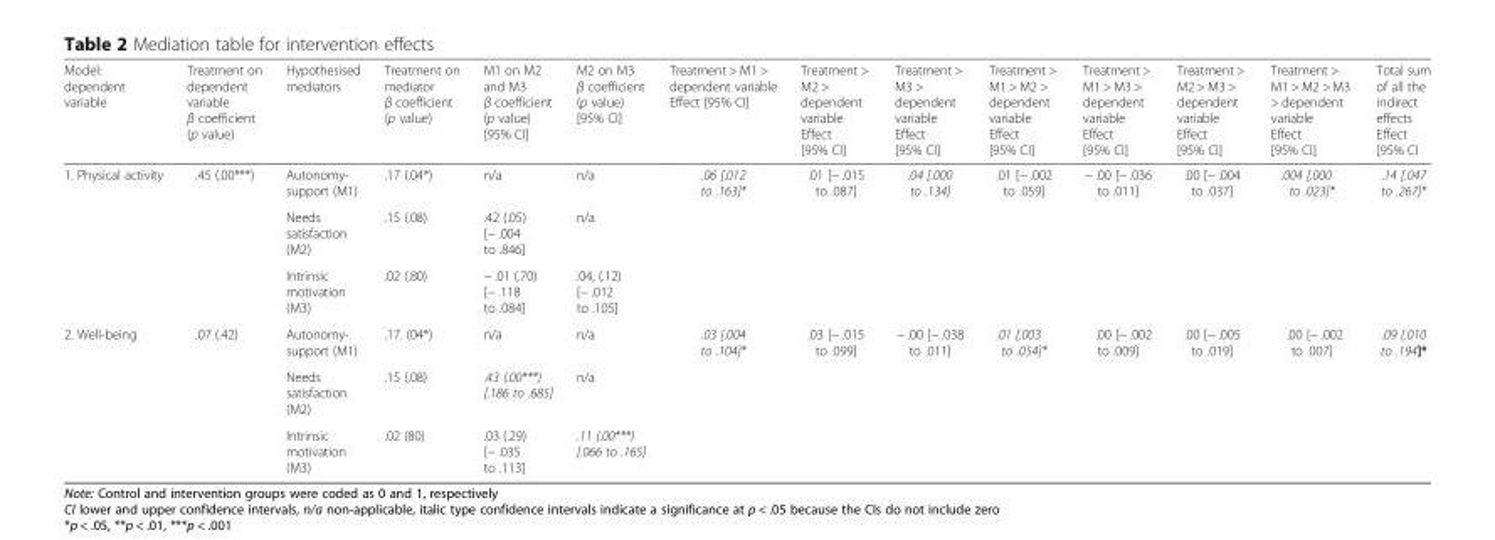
<table><thead><tr><td>Model: dependent variable</td><td>Treatment on dependent variable β coefficient (p value)</td><td>Hypothesised mediators</td><td>Treatment on mediator β coefficient (p value)</td><td>M1 on M2 and M3 β coefficient (p value) [95% CI]</td><td>M2 on M3 β coefficient (p value) [95% CI]</td><td>Treatment &gt; M1 &gt; dependent variable Effect [95% CI]</td><td>Treatment &gt; M2 &gt; dependent variable Effect [95% CI]</td><td>Treatment &gt; M3 &gt; dependent variable Effect [95% CI]</td><td>Treatment &gt; M1 &gt; M2 &gt; dependent variable Effect [95% CI]</td><td>Treatment &gt; M1 &gt; M3 &gt; dependent variable Effect [95% CI]</td><td>Treatment &gt; M2 &gt; M3 &gt; dependent variable Effect [95% CI]</td><td>Treatment &gt; M1 &gt; M2 &gt; M3 &gt; dependent variable Effect [95% CI]</td><td>Total sum of all the indirect effects Effect [95% CI</td></tr></thead><tbody><tr><td rowspan="3">1. Physical activity</td><td rowspan="3">.45 (.00***)</td><td>Autonomy- support (M1)</td><td>.17 (.04*)</td><td>n/a</td><td>n/a</td><td rowspan="3">.06 [.012 to .163]*</td><td rowspan="3">.01 [− .015 to .087]</td><td rowspan="3">.04 [.000 to .134]</td><td rowspan="3">.01 [− .002 to .059]</td><td rowspan="3">− .00 [− .036 to .011]</td><td rowspan="3">.00 [− .004 to .037]</td><td rowspan="3">.004 [.000 to .023]*</td><td rowspan="3">.14 [.047 to .267]*</td></tr><tr><td>Needs satisfaction (M2)</td><td>.15 (.08)</td><td>.42 (.05) [− .004 to .846]</td><td>n/a</td></tr><tr><td>Intrinsic motivation (M3)</td><td>.02 (.80)</td><td>− .01 (.70) [− .118 to .084]</td><td>.04, (.12) [− .012 to .105]</td></tr><tr><td rowspan="3">2. Well-being</td><td rowspan="3">.07 (.42)</td><td>Autonomy- support (M1)</td><td>.17. (04*)</td><td>n/a</td><td>n/a</td><td rowspan="3">.03 [.004 to .104]*</td><td rowspan="3">.03 [− .015 to .099]</td><td rowspan="3">− .00 [− .038 to .011]</td><td rowspan="3">.01 [.003 to .054]*</td><td rowspan="3">.00 [− .002 to .009]</td><td rowspan="3">.00 [− .005 to .019]</td><td rowspan="3">.00 [− .002 to .007]</td><td rowspan="3">.09 [.010 to .194]*</td></tr><tr><td>Needs satisfaction (M2)</td><td>.15 (.08)</td><td>.43 (.00***) [.186 to .685]</td><td>n/a</td></tr><tr><td>Intrinsic motivation (M3)</td><td>.02 (80)</td><td>.03 (.29) [− .035 to .113]</td><td>.11 (.00***) [.066 to .165]</td></tr></tbody></table>